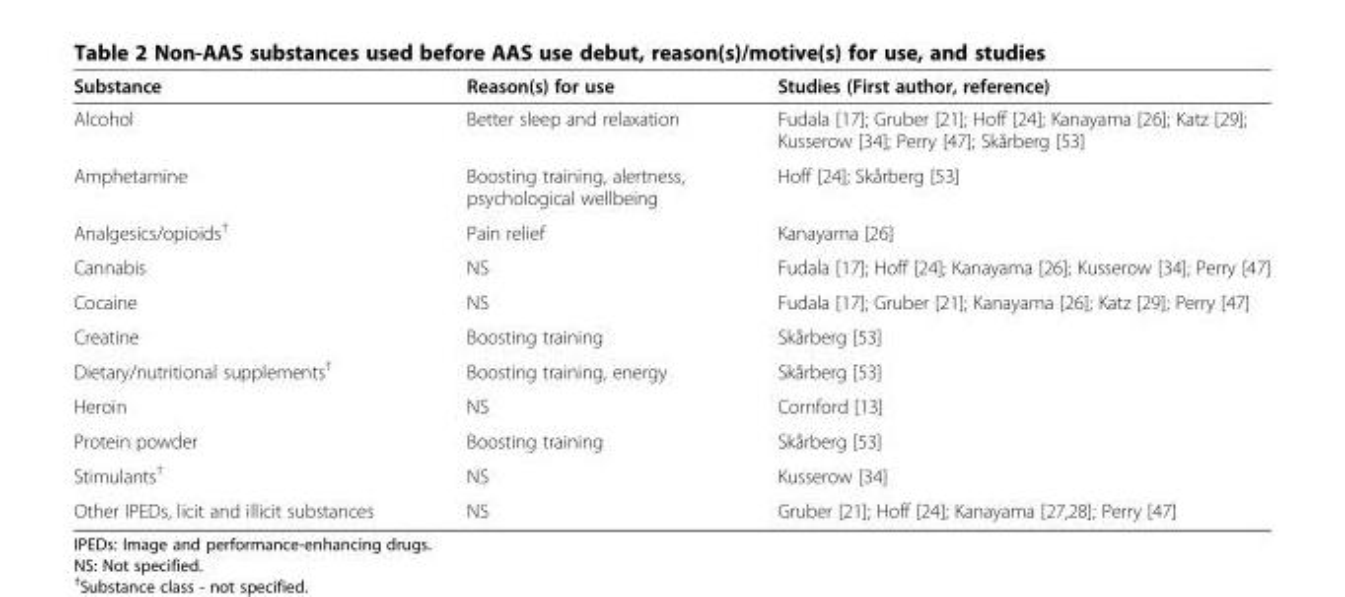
<table><thead><tr><td>Substance</td><td>Reason(s) for use</td><td>Studies (First author, reference)</td></tr></thead><tbody><tr><td>Alcohol</td><td>Better sleep and relaxation</td><td>Fudala [17]; Gruber [21]; Hoff [24]; Kanayama [26]; Katz [29]; Kusserow [34]; Perry [47]; Skårberg [53]</td></tr><tr><td>Amphetamine</td><td>Boosting training, alertness, psychological wellbeing</td><td>Hoff [24]; Skårberg [53]</td></tr><tr><td>Analgesics/opioids<sup>†</sup></td><td>Pain relief</td><td>Kanayama [26]</td></tr><tr><td>Cannabis</td><td>NS</td><td>Fudala [17]; Hoff [24]; Kanayama [26]; Kusserow [34]; Perry [47]</td></tr><tr><td>Cocaine</td><td>NS</td><td>Fudala [17]; Gruber [21]; Kanayama [26]; Katz [29]; Perry [47]</td></tr><tr><td>Creatine</td><td>Boosting training</td><td>Skårberg [53]</td></tr><tr><td>Dietary/nutritional supplements<sup>†</sup></td><td>Boosting training, energy</td><td>Skårberg [53]</td></tr><tr><td>Heroin</td><td>NS</td><td>Cornford [13]</td></tr><tr><td>Protein powder</td><td>Boosting training</td><td>Skårberg [53]</td></tr><tr><td>Stimulants<sup>†</sup></td><td>NS</td><td>Kusserow [34]</td></tr><tr><td>Other IPEDs, licit and illicit substances</td><td>NS</td><td>Gruber [21]; Hoff [24]; Kanayama [27,28]; Perry [47]</td></tr></tbody></table>